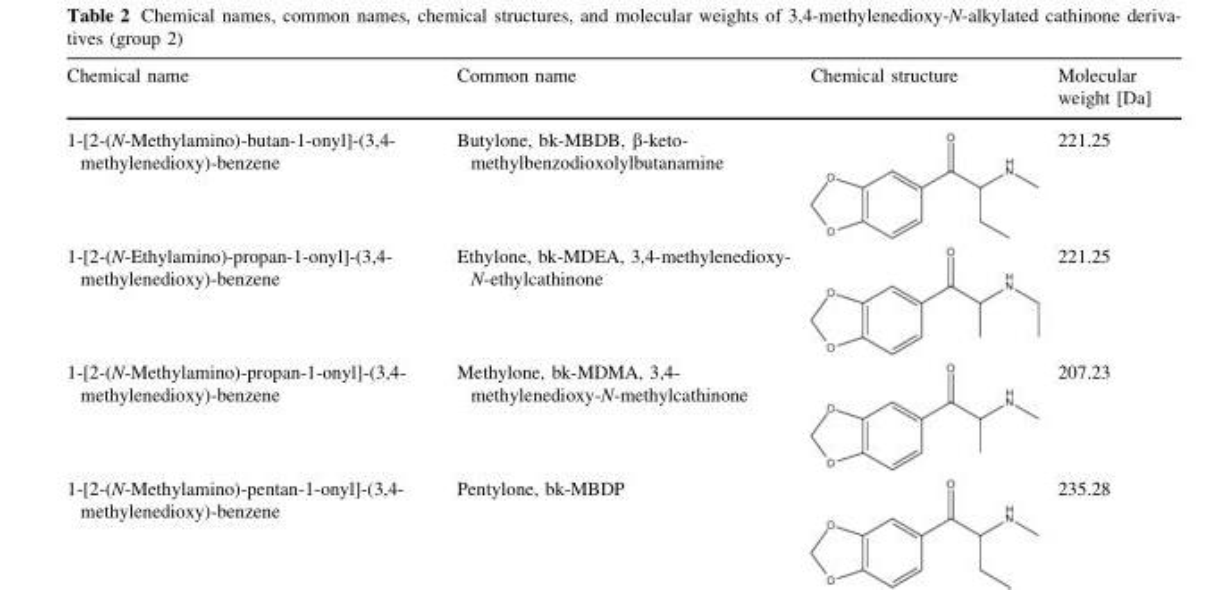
<table><thead><tr><td>Chemical name</td><td>Common name</td><td>Chemical structure</td><td>Molecular weight [Da]</td></tr></thead><tbody><tr><td>1-[2-(N-Methylamino)-butan-1-onyl]-(3,4- methylenedioxy)-benzene</td><td>Butylone, bk-MBDB, β-keto- methylbenzodioxolylbutanamine</td><td></td><td>221.25</td></tr><tr><td>1-[2-(N-Ethylamino)-propan-1-onyl]-(3,4- methylenedioxy)-benzene</td><td>Ethylone, bk-MDEA, 3,4-methylenedioxy- N-ethylcathinone</td><td></td><td>221.25</td></tr><tr><td>1-[2-(N-Methylamino)-propan-1-onyl]-(3,4- methylenedioxy)-benzene</td><td>Methylone, bk-MDMA, 3,4- methylenedioxy-N-methylcathinone</td><td></td><td>207.23</td></tr><tr><td>1-[2-(N-Methylamino)-pentan-1-onyl]-(3,4- methylenedioxy)-benzene</td><td>Pentylone, bk-MBDP</td><td></td><td>235.28</td></tr></tbody></table>